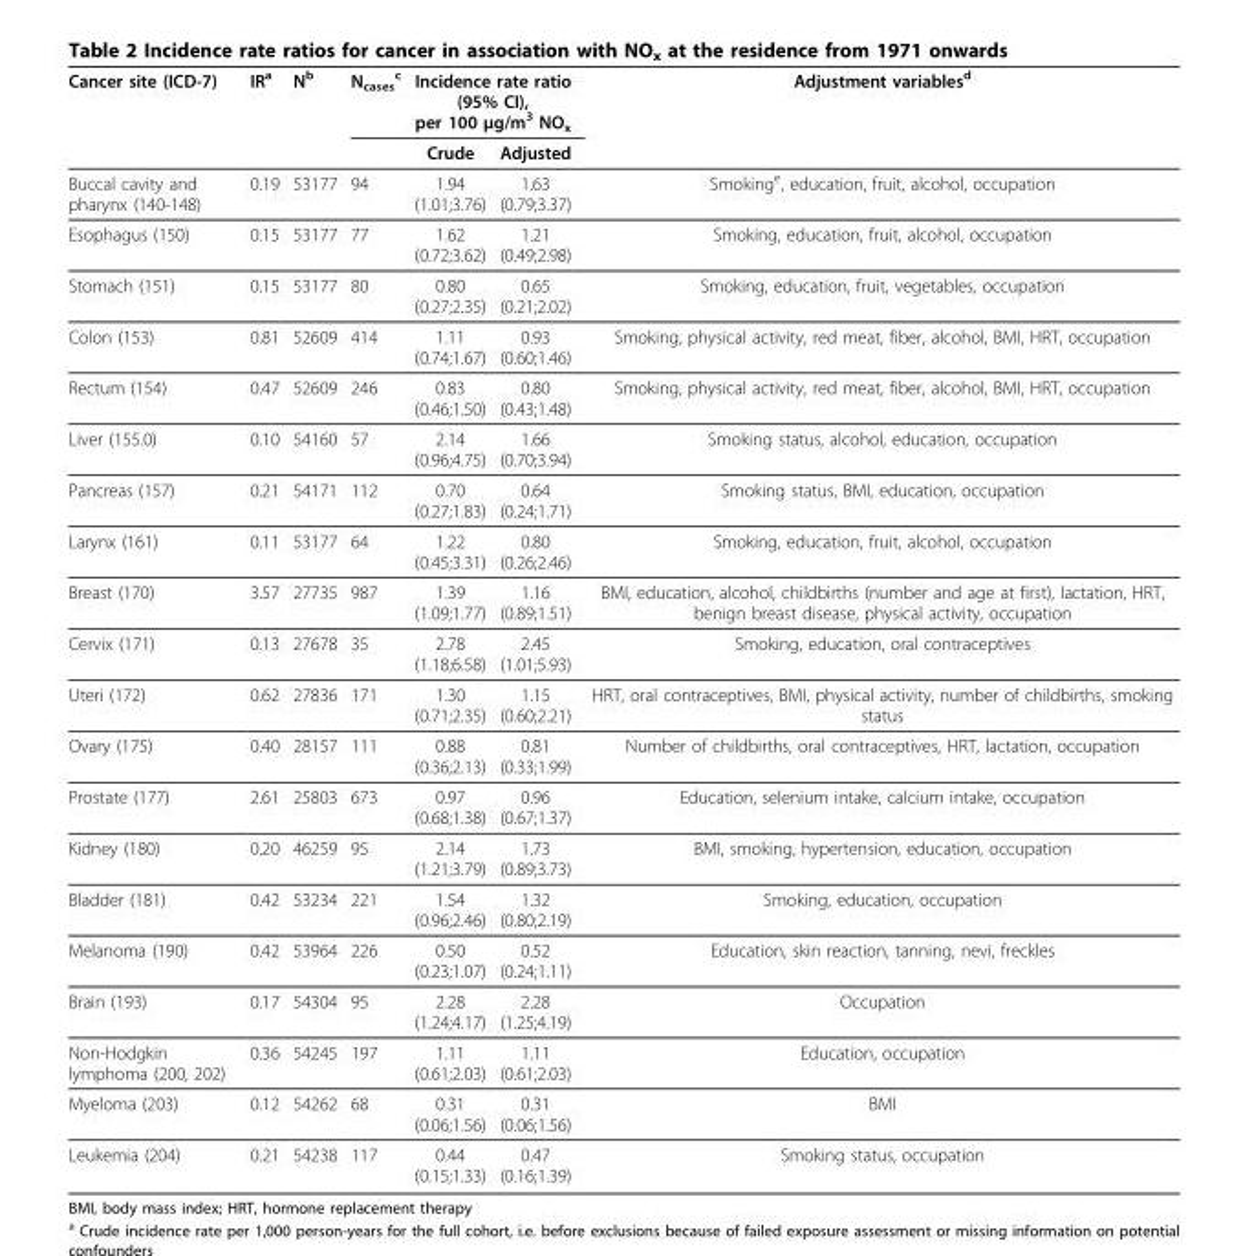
<table><thead><tr><td rowspan="2">Cancer site (ICD-7)</td><td rowspan="2">IR<sup>a</sup></td><td rowspan="2">N<sup>b</sup></td><td rowspan="2">N<sub>cases</sub> <sup>c</sup></td><td colspan="2">Incidence rate ratio (95% CI), per 100 μg/m<sup>3</sup> NO<sub>x</sub></td><td rowspan="2">Adjustment variables<sup>d</sup></td></tr><tr><td>Crude</td><td>Adjusted</td></tr></thead><tbody><tr><td>Buccal cavity and pharynx (140-148)</td><td>0.19</td><td>53177</td><td>94</td><td>1.94 (1.01;3.76)</td><td>1.63 (0.79;3.37)</td><td>Smoking<sup>e</sup>, education, fruit, alcohol, occupation</td></tr><tr><td>Esophagus (150)</td><td>0.15</td><td>53177</td><td>77</td><td>1.62 (0.72;3.62)</td><td>1.21 (0.49;2.98)</td><td>Smoking, education, fruit, alcohol, occupation</td></tr><tr><td>Stomach (151)</td><td>0.15</td><td>53177</td><td>80</td><td>0.80 (0.27;2.35)</td><td>0.65 (0.21;2.02)</td><td>Smoking, education, fruit, vegetables, occupation</td></tr><tr><td>Colon (153)</td><td>0.81</td><td>52609</td><td>414</td><td>1.11 (0.74;1.67)</td><td>0.93 (0.60;1.46)</td><td>Smoking, physical activity, red meat, fiber, alcohol, BMI, HRT, occupation</td></tr><tr><td>Rectum (154)</td><td>0.47</td><td>52609</td><td>246</td><td>0.83 (0.46;1.50)</td><td>0.80 (0.43;1.48)</td><td>Smoking, physical activity, red meat, fiber, alcohol, BMI, HRT, occupation</td></tr><tr><td>Liver (155.0)</td><td>0.10</td><td>54160</td><td>57</td><td>2.14 (0.96;4.75)</td><td>1.66 (0.70;3.94)</td><td>Smoking status, alcohol, education, occupation</td></tr><tr><td>Pancreas (157)</td><td>0.21</td><td>54171</td><td>112</td><td>0.70 (0.27;1.83)</td><td>0.64 (0.24;1.71)</td><td>Smoking status, BMI, education, occupation</td></tr><tr><td>Larynx (161)</td><td>0.11</td><td>53177</td><td>64</td><td>1.22 (0.45;3.31)</td><td>0.80 (0.26;2.46)</td><td>Smoking, education, fruit, alcohol, occupation</td></tr><tr><td>Breast (170)</td><td>3.57</td><td>27735</td><td>987</td><td>1.39 (1.09;1.77)</td><td>1.16 (0.89;1.51)</td><td>BMI, education, alcohol, childbirths (number and age at first), lactation, HRT, benign breast disease, physical activity, occupation</td></tr><tr><td>Cervix (171)</td><td>0.13</td><td>27678</td><td>35</td><td>2.78 (1.18;6.58)</td><td>2.45 (1.01;5.93)</td><td>Smoking, education, oral contraceptives</td></tr><tr><td>Uteri (172)</td><td>0.62</td><td>27836</td><td>171</td><td>1.30 (0.71;2.35)</td><td>1.15 (0.60;2.21)</td><td>HRT, oral contraceptives, BMI, physical activity, number of childbirths, smoking status</td></tr><tr><td>Ovary (175)</td><td>0.40</td><td>28157</td><td>111</td><td>0.88 (0.36;2.13)</td><td>0.81 (0.33;1.99)</td><td>Number of childbirths, oral contraceptives, HRT, lactation, occupation</td></tr><tr><td>Prostate (177)</td><td>2.61</td><td>25803</td><td>673</td><td>0.97 (0.68;1.38)</td><td>0.96 (0.67;1.37)</td><td>Education, selenium intake, calcium intake, occupation</td></tr><tr><td>Kidney (180)</td><td>0.20</td><td>46259</td><td>95</td><td>2.14 (1.21;3.79)</td><td>1.73 (0.89;3.73)</td><td>BMI, smoking, hypertension, education, occupation</td></tr><tr><td>Bladder (181)</td><td>0.42</td><td>53234</td><td>221</td><td>1.54 (0.96;2.46)</td><td>1.32 (0.80;2.19)</td><td>Smoking, education, occupation</td></tr><tr><td>Melanoma (190)</td><td>0.42</td><td>53964</td><td>226</td><td>0.50 (0.23;1.07)</td><td>0.52 (0.24;1.11)</td><td>Education, skin reaction, tanning, nevi, freckles</td></tr><tr><td>Brain (193)</td><td>0.17</td><td>54304</td><td>95</td><td>2.28 (1.24;4.17)</td><td>2.28 (1.25;4.19)</td><td>Occupation</td></tr><tr><td>Non-Hodgkin lymphoma (200, 202)</td><td>0.36</td><td>54245</td><td>197</td><td>1.11 (0.61;2.03)</td><td>1.11 (0.61;2.03)</td><td>Education, occupation</td></tr><tr><td>Myeloma (203)</td><td>0.12</td><td>54262</td><td>68</td><td>0.31 (0.06;1.56)</td><td>0.31 (0.06;1.56)</td><td>BMI</td></tr><tr><td>Leukemia (204)</td><td>0.21</td><td>54238</td><td>117</td><td>0.44 (0.15;1.33)</td><td>0.47 (0.16;1.39)</td><td>Smoking status, occupation</td></tr></tbody></table>